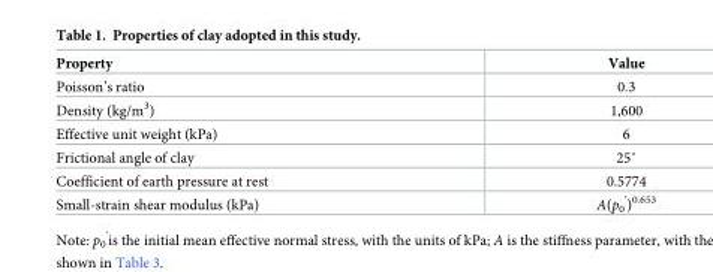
<table><thead><tr><td>Property</td><td>Value</td></tr></thead><tbody><tr><td>Poisson’s ratio</td><td>0.3</td></tr><tr><td>Density (kg/m<sup>3</sup>)</td><td>1,600</td></tr><tr><td>Effective unit weight (kPa)</td><td>6</td></tr><tr><td>Frictional angle of clay</td><td>25˚</td></tr><tr><td>Coefficient of earth pressure at rest</td><td>0.5774</td></tr><tr><td>Small-strain shear modulus (kPa)</td><td>A(p<sub>0</sub> <sup>’</sup>)<sup>0.653</sup></td></tr></tbody></table>